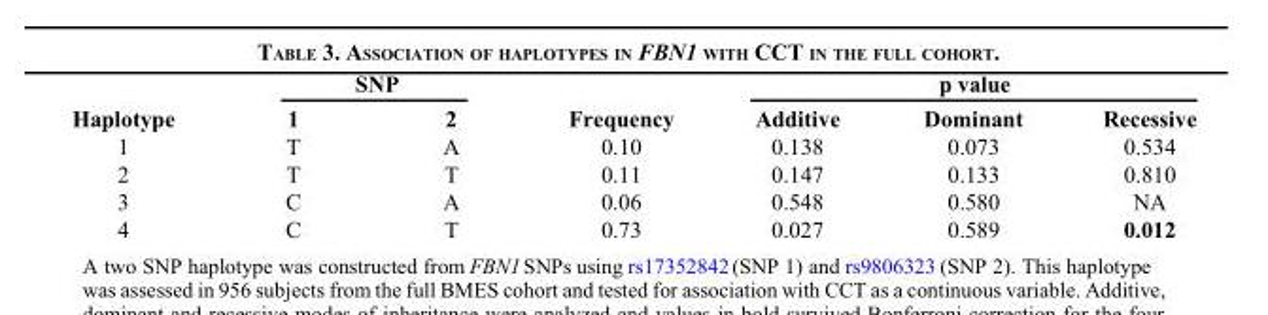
<table><thead><tr><td rowspan="2">Haplotype</td><td colspan="2">SNP</td><td rowspan="2">Frequency</td><td colspan="3">p value</td></tr><tr><td>1</td><td>2</td><td>Additive</td><td>Dominant</td><td>Recessive</td></tr></thead><tbody><tr><td>1</td><td>T</td><td>A</td><td>0.10</td><td>0.138</td><td>0.073</td><td>0.534</td></tr><tr><td>2</td><td>T</td><td>T</td><td>0.11</td><td>0.147</td><td>0.133</td><td>0.810</td></tr><tr><td>3</td><td>C</td><td>A</td><td>0.06</td><td>0.548</td><td>0.580</td><td>NA</td></tr><tr><td>4</td><td>C</td><td>T</td><td>0.73</td><td>0.027</td><td>0.589</td><td>0.012</td></tr></tbody></table>